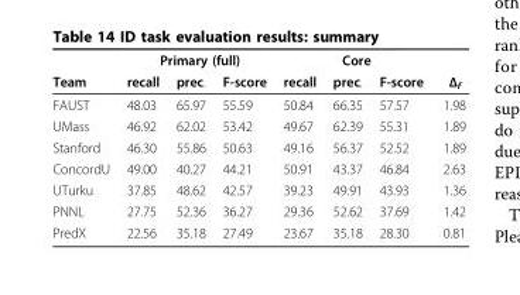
<table><thead><tr><td rowspan="2">Team</td><td colspan="3">Primary (full)</td><td colspan="3">Core</td><td rowspan="2">Δ<sub>f</sub></td></tr><tr><td>recall</td><td>prec.</td><td>F-score</td><td>recall</td><td>prec.</td><td>F-score</td></tr></thead><tbody><tr><td>FAUST</td><td>48.03</td><td>65.97</td><td>55.59</td><td>50.84</td><td>66.35</td><td>57.57</td><td>1.98</td></tr><tr><td>UMass</td><td>46.92</td><td>62.02</td><td>53.42</td><td>49.67</td><td>62.39</td><td>55.31</td><td>1.89</td></tr><tr><td>Stanford</td><td>46.30</td><td>55.86</td><td>50.63</td><td>49.16</td><td>56.37</td><td>52.52</td><td>1.89</td></tr><tr><td>ConcordU</td><td>49.00</td><td>40.27</td><td>44.21</td><td>50.91</td><td>43.37</td><td>46.84</td><td>2.63</td></tr><tr><td>UTurku</td><td>37.85</td><td>48.62</td><td>42.57</td><td>39.23</td><td>49.91</td><td>43.93</td><td>1.36</td></tr><tr><td>PNNL</td><td>27.75</td><td>52.36</td><td>36.27</td><td>29.36</td><td>52.62</td><td>37.69</td><td>1.42</td></tr><tr><td>PredX</td><td>22.56</td><td>35.18</td><td>27.49</td><td>23.67</td><td>35.18</td><td>28.30</td><td>0.81</td></tr></tbody></table>